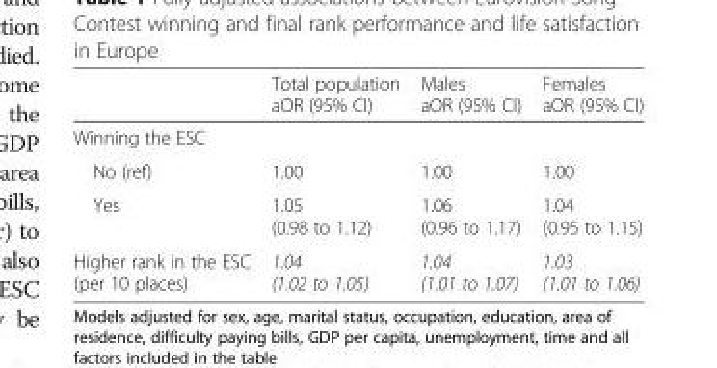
<table><thead><tr><td></td><td>Total population aOR (95% CI)</td><td>Males aOR (95% CI)</td><td>Females aOR (95% CI)</td></tr></thead><tbody><tr><td colspan="4">Winning the ESC</td></tr><tr><td>No (ref)</td><td>1.00</td><td>1.00</td><td>1.00</td></tr><tr><td>Yes</td><td>1.05 (0.98 to 1.12)</td><td>1.06 (0.96 to 1.17)</td><td>1.04 (0.95 to 1.15)</td></tr><tr><td>Higher rank in the ESC (per 10 places)</td><td>1.04 (1.02 to 1.05)</td><td>1.04 (1.01 to 1.07)</td><td>1.03 (1.01 to 1.06)</td></tr></tbody></table>